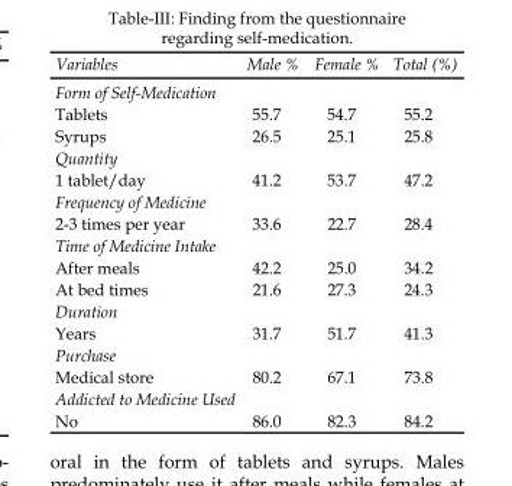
<table><thead><tr><td>Variables</td><td>Male %</td><td>Female %</td><td>Total (%)</td></tr></thead><tbody><tr><td colspan="4">Form of Self-Medication</td></tr><tr><td>Tablets</td><td>55.7</td><td>54.7</td><td>55.2</td></tr><tr><td>Syrups</td><td>26.5</td><td>25.1</td><td>25.8</td></tr><tr><td colspan="4">Quantity</td></tr><tr><td>1 tablet/day</td><td>41.2</td><td>53.7</td><td>47.2</td></tr><tr><td colspan="4">Frequency of Medicine</td></tr><tr><td>2-3 times per year</td><td>33.6</td><td>22.7</td><td>28.4</td></tr><tr><td colspan="4">Time of Medicine Intake</td></tr><tr><td>After meals</td><td>42.2</td><td>25.0</td><td>34.2</td></tr><tr><td>At bed times</td><td>21.6</td><td>27.3</td><td>24.3</td></tr><tr><td colspan="4">Duration</td></tr><tr><td>Years</td><td>31.7</td><td>51.7</td><td>41.3</td></tr><tr><td colspan="4">Purchase</td></tr><tr><td>Medical store</td><td>80.2</td><td>67.1</td><td>73.8</td></tr><tr><td colspan="4">Addicted to Medicine Used</td></tr><tr><td>No</td><td>86.0</td><td>82.3</td><td>84.2</td></tr></tbody></table>